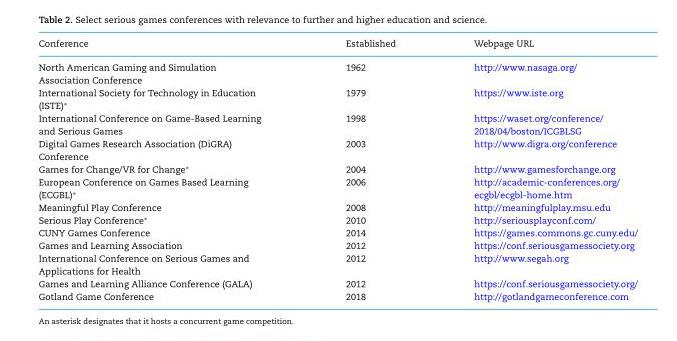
<table><thead><tr><td>Conference</td><td>Established</td><td>Webpage URL</td></tr></thead><tbody><tr><td>North American Gaming and Simulation Association Conference</td><td>1962</td><td>http://www.nasaga.org/</td></tr><tr><td>International Society for Technology in Education (ISTE)∗</td><td>1979</td><td>https://www.iste.org</td></tr><tr><td>International Conference on Game-Based Learning and Serious Games</td><td>1998</td><td>https://waset.org/conference/ 2018/04/boston/ICGBLSG</td></tr><tr><td>Digital Games Research Association (DiGRA) Conference</td><td>2003</td><td>http://www.digra.org/conference</td></tr><tr><td>Games for Change/VR for Change∗</td><td>2004</td><td>http://www.gamesforchange.org</td></tr><tr><td>European Conference on Games Based Learning (ECGBL)∗</td><td>2006</td><td>http://academic-conferences.org/ ecgbl/ecgbl-home.htm</td></tr><tr><td>Meaningful Play Conference</td><td>2008</td><td>http://meaningfulplay.msu.edu</td></tr><tr><td>Serious Play Conference∗</td><td>2010</td><td>http://seriousplayconf.com/</td></tr><tr><td>CUNY Games Conference</td><td>2014</td><td>https://games.commons.gc.cuny.edu/</td></tr><tr><td>Games and Learning Association</td><td>2012</td><td>https://conf.seriousgamessociety.org</td></tr><tr><td>International Conference on Serious Games and Applications for Health</td><td>2012</td><td>http://www.segah.org</td></tr><tr><td>Games and Learning Alliance Conference (GALA)</td><td>2012</td><td>https://conf.seriousgamessociety.org/</td></tr><tr><td>Gotland Game Conference</td><td>2018</td><td>http://gotlandgameconference.com</td></tr></tbody></table>